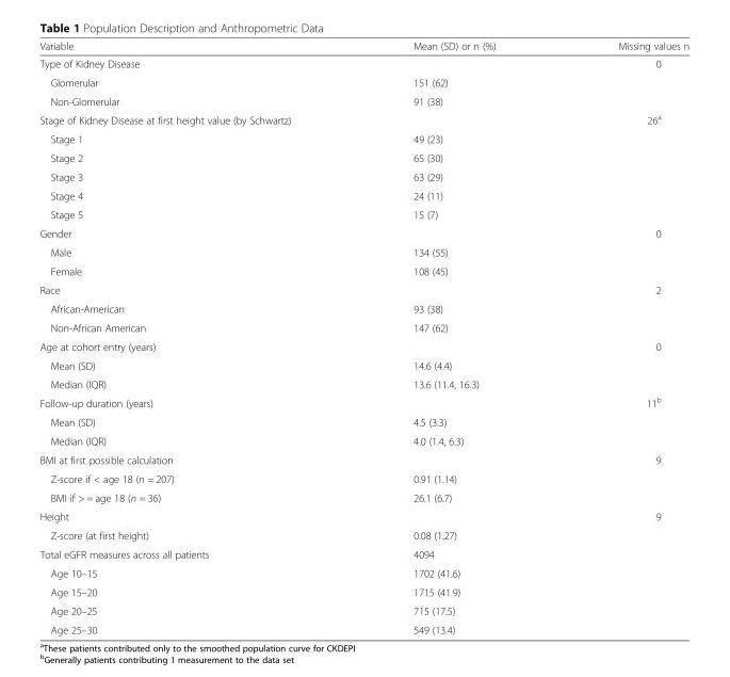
<table><thead><tr><td>Variable</td><td>Mean (SD) or n (%)</td><td>Missing values n</td></tr></thead><tbody><tr><td>Type of Kidney Disease</td><td></td><td>0</td></tr><tr><td>Glomerular</td><td>151 (62)</td><td></td></tr><tr><td>Non-Glomerular</td><td>91 (38)</td><td></td></tr><tr><td>Stage of Kidney Disease at first height value (by Schwartz)</td><td></td><td>26<sup>a</sup></td></tr><tr><td>Stage 1</td><td>49 (23)</td><td></td></tr><tr><td>Stage 2</td><td>65 (30)</td><td></td></tr><tr><td>Stage 3</td><td>63 (29)</td><td></td></tr><tr><td>Stage 4</td><td>24 (11)</td><td></td></tr><tr><td>Stage 5</td><td>15 (7)</td><td></td></tr><tr><td>Gender</td><td></td><td>0</td></tr><tr><td>Male</td><td>134 (55)</td><td></td></tr><tr><td>Female</td><td>108 (45)</td><td></td></tr><tr><td>Race</td><td></td><td>2</td></tr><tr><td>African-American</td><td>93 (38)</td><td></td></tr><tr><td>Non-African American</td><td>147 (62)</td><td></td></tr><tr><td>Age at cohort entry (years)</td><td></td><td>0</td></tr><tr><td>Mean (SD)</td><td>14.6 (4.4)</td><td></td></tr><tr><td>Median (IQR)</td><td>13.6 (11.4, 16.3)</td><td></td></tr><tr><td>Follow-up duration (years)</td><td></td><td>11<sup>b</sup></td></tr><tr><td>Mean (SD)</td><td>4.5 (3.3)</td><td></td></tr><tr><td>Median (IQR)</td><td>4.0 (1.4, 6.3)</td><td></td></tr><tr><td>BMI at first possible calculation</td><td></td><td>9</td></tr><tr><td>Z-score if &lt; age 18 (n = 207)</td><td>0.91 (1.14)</td><td></td></tr><tr><td>BMI if &gt; = age 18 (n = 36)</td><td>26.1 (6.7)</td><td></td></tr><tr><td>Height</td><td></td><td>9</td></tr><tr><td>Z-score (at first height)</td><td>0.08 (1.27)</td><td></td></tr><tr><td>Total eGFR measures across all patients</td><td>4094</td><td></td></tr><tr><td>Age 10–15</td><td>1702 (41.6)</td><td></td></tr><tr><td>Age 15–20</td><td>1715 (41.9)</td><td></td></tr><tr><td>Age 20–25</td><td>715 (17.5)</td><td></td></tr><tr><td>Age 25–30</td><td>549 (13.4)</td><td></td></tr></tbody></table>